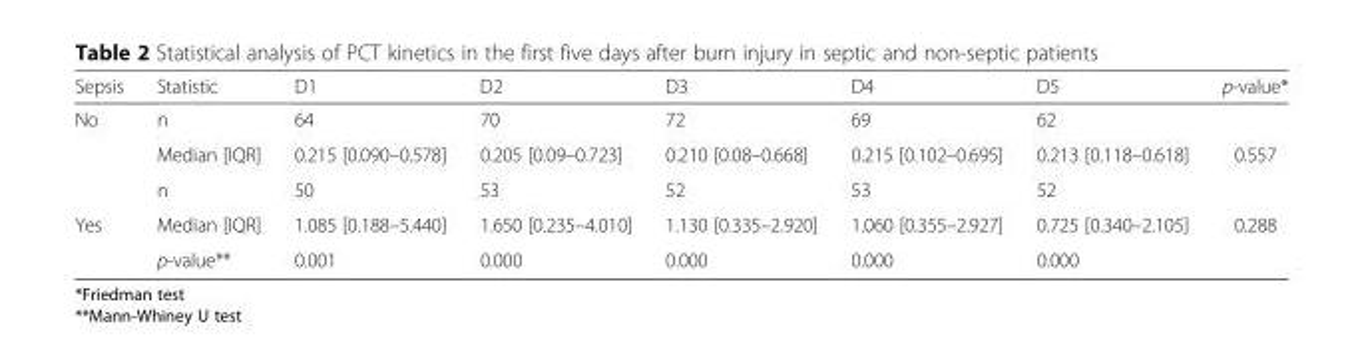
<table><thead><tr><td>Sepsis</td><td>Statistic</td><td>D1</td><td>D2</td><td>D3</td><td>D4</td><td>D5</td><td>p-value*</td></tr></thead><tbody><tr><td rowspan="3">No</td><td>n</td><td>64</td><td>70</td><td>72</td><td>69</td><td>62</td><td></td></tr><tr><td>Median [IQR]</td><td>0.215 [0.090–0.578]</td><td>0.205 [0.09–0.723]</td><td>0.210 [0.08–0.668]</td><td>0.215 [0.102–0.695]</td><td>0.213 [0.118–0.618]</td><td>0.557</td></tr><tr><td>n</td><td>50</td><td>53</td><td>52</td><td>53</td><td>52</td><td></td></tr><tr><td rowspan="2">Yes</td><td>Median [IQR]</td><td>1.085 [0.188–5.440]</td><td>1.650 [0.235–4.010]</td><td>1.130 [0.335–2.920]</td><td>1.060 [0.355–2.927]</td><td>0.725 [0.340–2.105]</td><td>0.288</td></tr><tr><td>p-value**</td><td>0.001</td><td>0.000</td><td>0.000</td><td>0.000</td><td>0.000</td><td></td></tr></tbody></table>